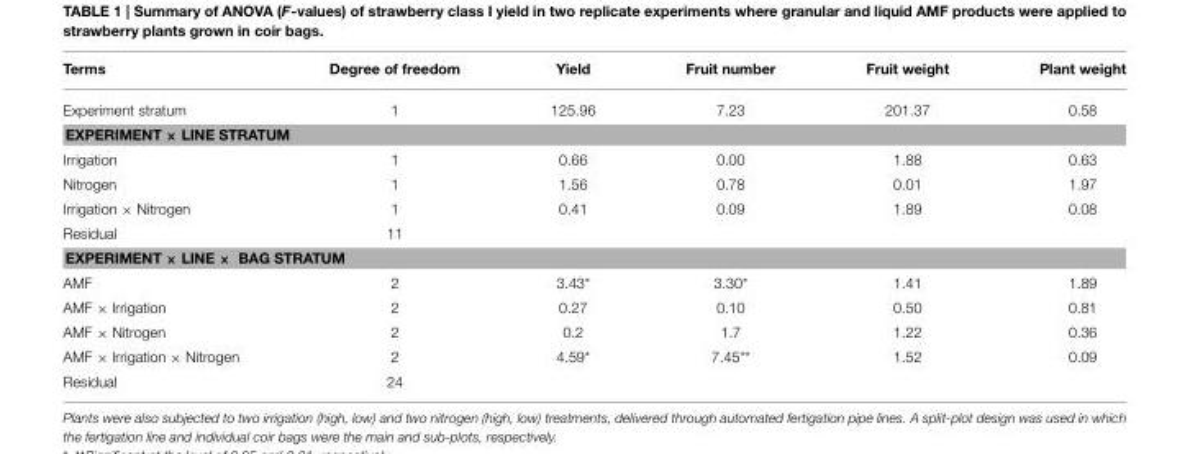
<table><thead><tr><td>Terms</td><td>Degree of freedom</td><td>Yield</td><td>Fruit number</td><td>Fruit weight</td><td>Plant weight</td></tr></thead><tbody><tr><td>Experiment stratum</td><td>1</td><td>125.96</td><td>7.23</td><td>201.37</td><td>0.58</td></tr><tr><td colspan="6">EXPERIMENT × LINE STRATUM</td></tr><tr><td>Irrigation</td><td>1</td><td>0.66</td><td>0.00</td><td>1.88</td><td>0.63</td></tr><tr><td>Nitrogen</td><td>1</td><td>1.56</td><td>0.78</td><td>0.01</td><td>1.97</td></tr><tr><td>Irrigation × Nitrogen</td><td>1</td><td>0.41</td><td>0.09</td><td>1.89</td><td>0.08</td></tr><tr><td>Residual</td><td>11</td><td></td><td></td><td></td><td></td></tr><tr><td colspan="6">EXPERIMENT × LINE × BAG STRATUM</td></tr><tr><td>AMF</td><td>2</td><td>3.43*</td><td>3.30*</td><td>1.41</td><td>1.89</td></tr><tr><td>AMF × Irrigation</td><td>2</td><td>0.27</td><td>0.10</td><td>0.50</td><td>0.81</td></tr><tr><td>AMF × Nitrogen</td><td>2</td><td>0.2</td><td>1.7</td><td>1.22</td><td>0.36</td></tr><tr><td>AMF × Irrigation × Nitrogen</td><td>2</td><td>4.59*</td><td>7.45**</td><td>1.52</td><td>0.09</td></tr><tr><td>Residual</td><td>24</td><td></td><td></td><td></td><td></td></tr></tbody></table>